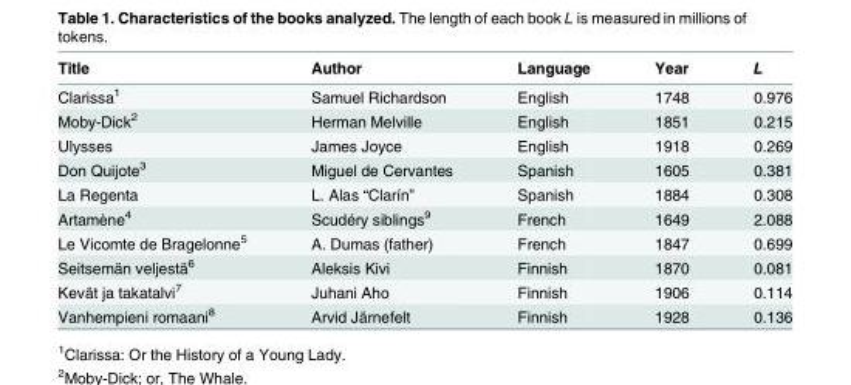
<table><thead><tr><td>Title</td><td>Author</td><td>Language</td><td>Year</td><td>L</td></tr></thead><tbody><tr><td>Clarissa<sup>1</sup></td><td>Samuel Richardson</td><td>English</td><td>1748</td><td>0.976</td></tr><tr><td>Moby-Dick<sup>2</sup></td><td>Herman Melville</td><td>English</td><td>1851</td><td>0.215</td></tr><tr><td>Ulysses</td><td>James Joyce</td><td>English</td><td>1918</td><td>0.269</td></tr><tr><td>Don Quijote<sup>3</sup></td><td>Miguel de Cervantes</td><td>Spanish</td><td>1605</td><td>0.381</td></tr><tr><td>La Regenta</td><td>L. Alas “Clarín”</td><td>Spanish</td><td>1884</td><td>0.308</td></tr><tr><td>Artamène<sup>4</sup></td><td>Scudéry siblings<sup>9</sup></td><td>French</td><td>1649</td><td>2.088</td></tr><tr><td>Le Vicomte de Bragelonne<sup>5</sup></td><td>A. Dumas (father)</td><td>French</td><td>1847</td><td>0.699</td></tr><tr><td>Seitsemän veljestä<sup>6</sup></td><td>Aleksis Kivi</td><td>Finnish</td><td>1870</td><td>0.081</td></tr><tr><td>Kevät ja takatalvi<sup>7</sup></td><td>Juhani Aho</td><td>Finnish</td><td>1906</td><td>0.114</td></tr><tr><td>Vanhempieni romaani<sup>8</sup></td><td>Arvid Järnefelt</td><td>Finnish</td><td>1928</td><td>0.136</td></tr></tbody></table>